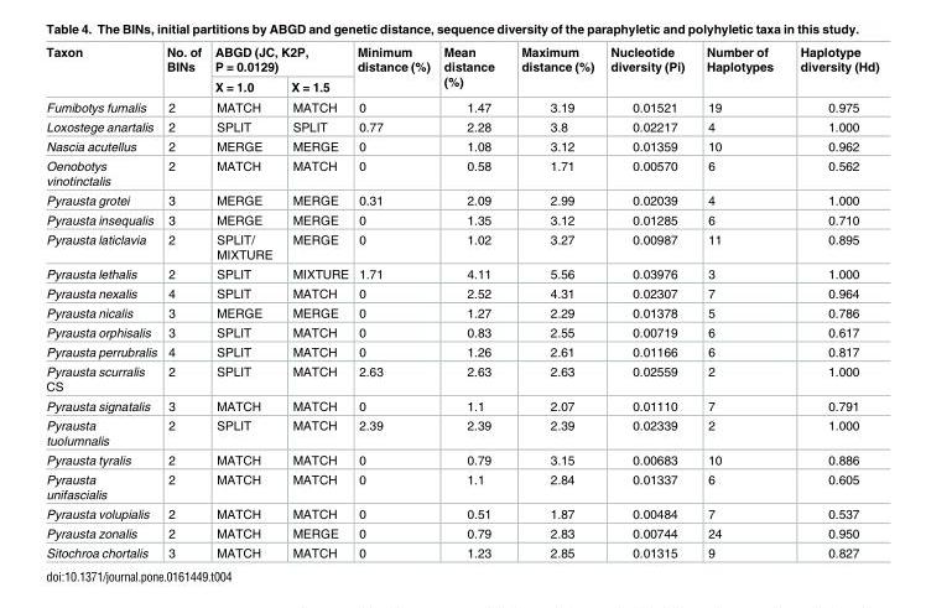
<table><thead><tr><td rowspan="2">Taxon</td><td rowspan="2">No. of BINs</td><td colspan="2">ABGD (JC, K2P, P = 0.0129)</td><td rowspan="2">Minimum distance (%)</td><td rowspan="2">Mean distance (%)</td><td rowspan="2">Maximum distance (%)</td><td rowspan="2">Nucleotide diversity (Pi)</td><td rowspan="2">Number of Haplotypes</td><td rowspan="2">Haplotype diversity (Hd)</td></tr><tr><td>X = 1.0</td><td>X = 1.5</td></tr></thead><tbody><tr><td>Fumibotys fumalis</td><td>2</td><td>MATCH</td><td>MATCH</td><td>0</td><td>1.47</td><td>3.19</td><td>0.01521</td><td>19</td><td>0.975</td></tr><tr><td>Loxostege anartalis</td><td>2</td><td>SPLIT</td><td>SPLIT</td><td>0.77</td><td>2.28</td><td>3.8</td><td>0.02217</td><td>4</td><td>1.000</td></tr><tr><td>Nascia acutellus</td><td>2</td><td>MERGE</td><td>MERGE</td><td>0</td><td>1.08</td><td>3.12</td><td>0.01359</td><td>10</td><td>0.962</td></tr><tr><td>Oenobotys vinotinctalis</td><td>2</td><td>MATCH</td><td>MATCH</td><td>0</td><td>0.58</td><td>1.71</td><td>0.00570</td><td>6</td><td>0.562</td></tr><tr><td>Pyrausta grotei</td><td>3</td><td>MERGE</td><td>MERGE</td><td>0.31</td><td>2.09</td><td>2.99</td><td>0.02039</td><td>4</td><td>1.000</td></tr><tr><td>Pyrausta insequalis</td><td>3</td><td>MERGE</td><td>MERGE</td><td>0</td><td>1.35</td><td>3.12</td><td>0.01285</td><td>6</td><td>0.710</td></tr><tr><td>Pyrausta laticlavia</td><td>2</td><td>SPLIT/ MIXTURE</td><td>MERGE</td><td>0</td><td>1.02</td><td>3.27</td><td>0.00987</td><td>11</td><td>0.895</td></tr><tr><td>Pyrausta lethalis</td><td>2</td><td>SPLIT</td><td>MIXTURE</td><td>1.71</td><td>4.11</td><td>5.56</td><td>0.03976</td><td>3</td><td>1.000</td></tr><tr><td>Pyrausta nexalis</td><td>4</td><td>SPLIT</td><td>MATCH</td><td>0</td><td>2.52</td><td>4.31</td><td>0.02307</td><td>7</td><td>0.964</td></tr><tr><td>Pyrausta nicalis</td><td>3</td><td>MERGE</td><td>MERGE</td><td>0</td><td>1.27</td><td>2.29</td><td>0.01378</td><td>5</td><td>0.786</td></tr><tr><td>Pyrausta orphisalis</td><td>3</td><td>SPLIT</td><td>MATCH</td><td>0</td><td>0.83</td><td>2.55</td><td>0.00719</td><td>6</td><td>0.617</td></tr><tr><td>Pyrausta perrubralis</td><td>4</td><td>SPLIT</td><td>MATCH</td><td>0</td><td>1.26</td><td>2.61</td><td>0.01166</td><td>6</td><td>0.817</td></tr><tr><td>Pyrausta scurralis CS</td><td>2</td><td>SPLIT</td><td>MATCH</td><td>2.63</td><td>2.63</td><td>2.63</td><td>0.02559</td><td>2</td><td>1.000</td></tr><tr><td>Pyrausta signatalis</td><td>3</td><td>MATCH</td><td>MATCH</td><td>0</td><td>1.1</td><td>2.07</td><td>0.01110</td><td>7</td><td>0.791</td></tr><tr><td>Pyrausta tuolumnalis</td><td>2</td><td>SPLIT</td><td>MATCH</td><td>2.39</td><td>2.39</td><td>2.39</td><td>0.02339</td><td>2</td><td>1.000</td></tr><tr><td>Pyrausta tyralis</td><td>2</td><td>MATCH</td><td>MATCH</td><td>0</td><td>0.79</td><td>3.15</td><td>0.00683</td><td>10</td><td>0.886</td></tr><tr><td>Pyrausta unifascialis</td><td>2</td><td>MATCH</td><td>MATCH</td><td>0</td><td>1.1</td><td>2.84</td><td>0.01337</td><td>6</td><td>0.605</td></tr><tr><td>Pyrausta volupialis</td><td>2</td><td>MATCH</td><td>MATCH</td><td>0</td><td>0.51</td><td>1.87</td><td>0.00484</td><td>7</td><td>0.537</td></tr><tr><td>Pyrausta zonalis</td><td>2</td><td>MATCH</td><td>MERGE</td><td>0</td><td>0.79</td><td>2.83</td><td>0.00744</td><td>24</td><td>0.950</td></tr><tr><td>Sitochroa chortalis</td><td>3</td><td>MATCH</td><td>MATCH</td><td>0</td><td>1.23</td><td>2.85</td><td>0.01315</td><td>9</td><td>0.827</td></tr></tbody></table>